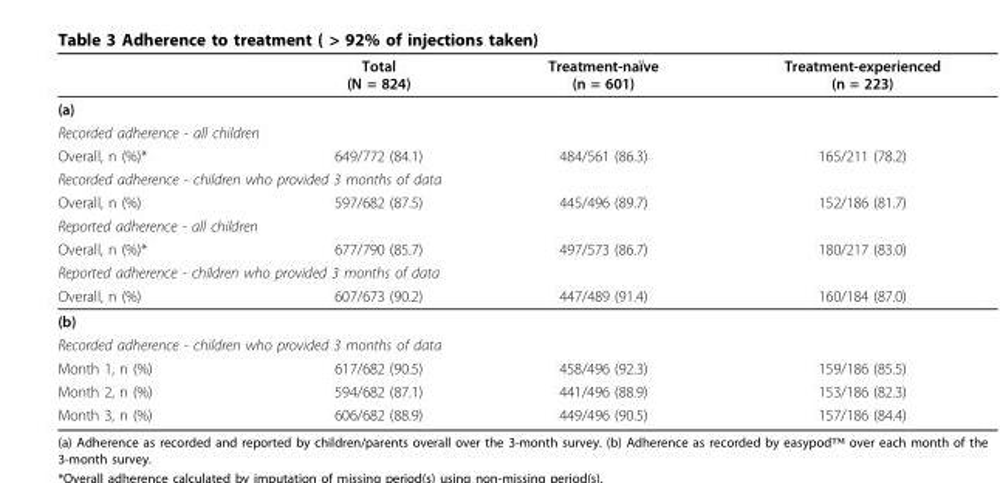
<table><thead><tr><td></td><td>Total (N = 824)</td><td>Treatment-naïve (n = 601)</td><td>Treatment-experienced (n = 223)</td></tr></thead><tbody><tr><td colspan="4">(a)</td></tr><tr><td colspan="4">Recorded adherence - all children</td></tr><tr><td>Overall, n (%)*</td><td>649/772 (84.1)</td><td>484/561 (86.3)</td><td>165/211 (78.2)</td></tr><tr><td colspan="4">Recorded adherence - children who provided 3 months of data</td></tr><tr><td>Overall, n (%)</td><td>597/682 (87.5)</td><td>445/496 (89.7)</td><td>152/186 (81.7)</td></tr><tr><td colspan="4">Reported adherence - all children</td></tr><tr><td>Overall, n (%)*</td><td>677/790 (85.7)</td><td>497/573 (86.7)</td><td>180/217 (83.0)</td></tr><tr><td colspan="4">Reported adherence - children who provided 3 months of data</td></tr><tr><td>Overall, n (%)</td><td>607/673 (90.2)</td><td>447/489 (91.4)</td><td>160/184 (87.0)</td></tr><tr><td colspan="4">(b)</td></tr><tr><td colspan="4">Recorded adherence - children who provided 3 months of data</td></tr><tr><td>Month 1, n (%)</td><td>617/682 (90.5)</td><td>458/496 (92.3)</td><td>159/186 (85.5)</td></tr><tr><td>Month 2, n (%)</td><td>594/682 (87.1)</td><td>441/496 (88.9)</td><td>153/186 (82.3)</td></tr><tr><td>Month 3, n (%)</td><td>606/682 (88.9)</td><td>449/496 (90.5)</td><td>157/186 (84.4)</td></tr></tbody></table>